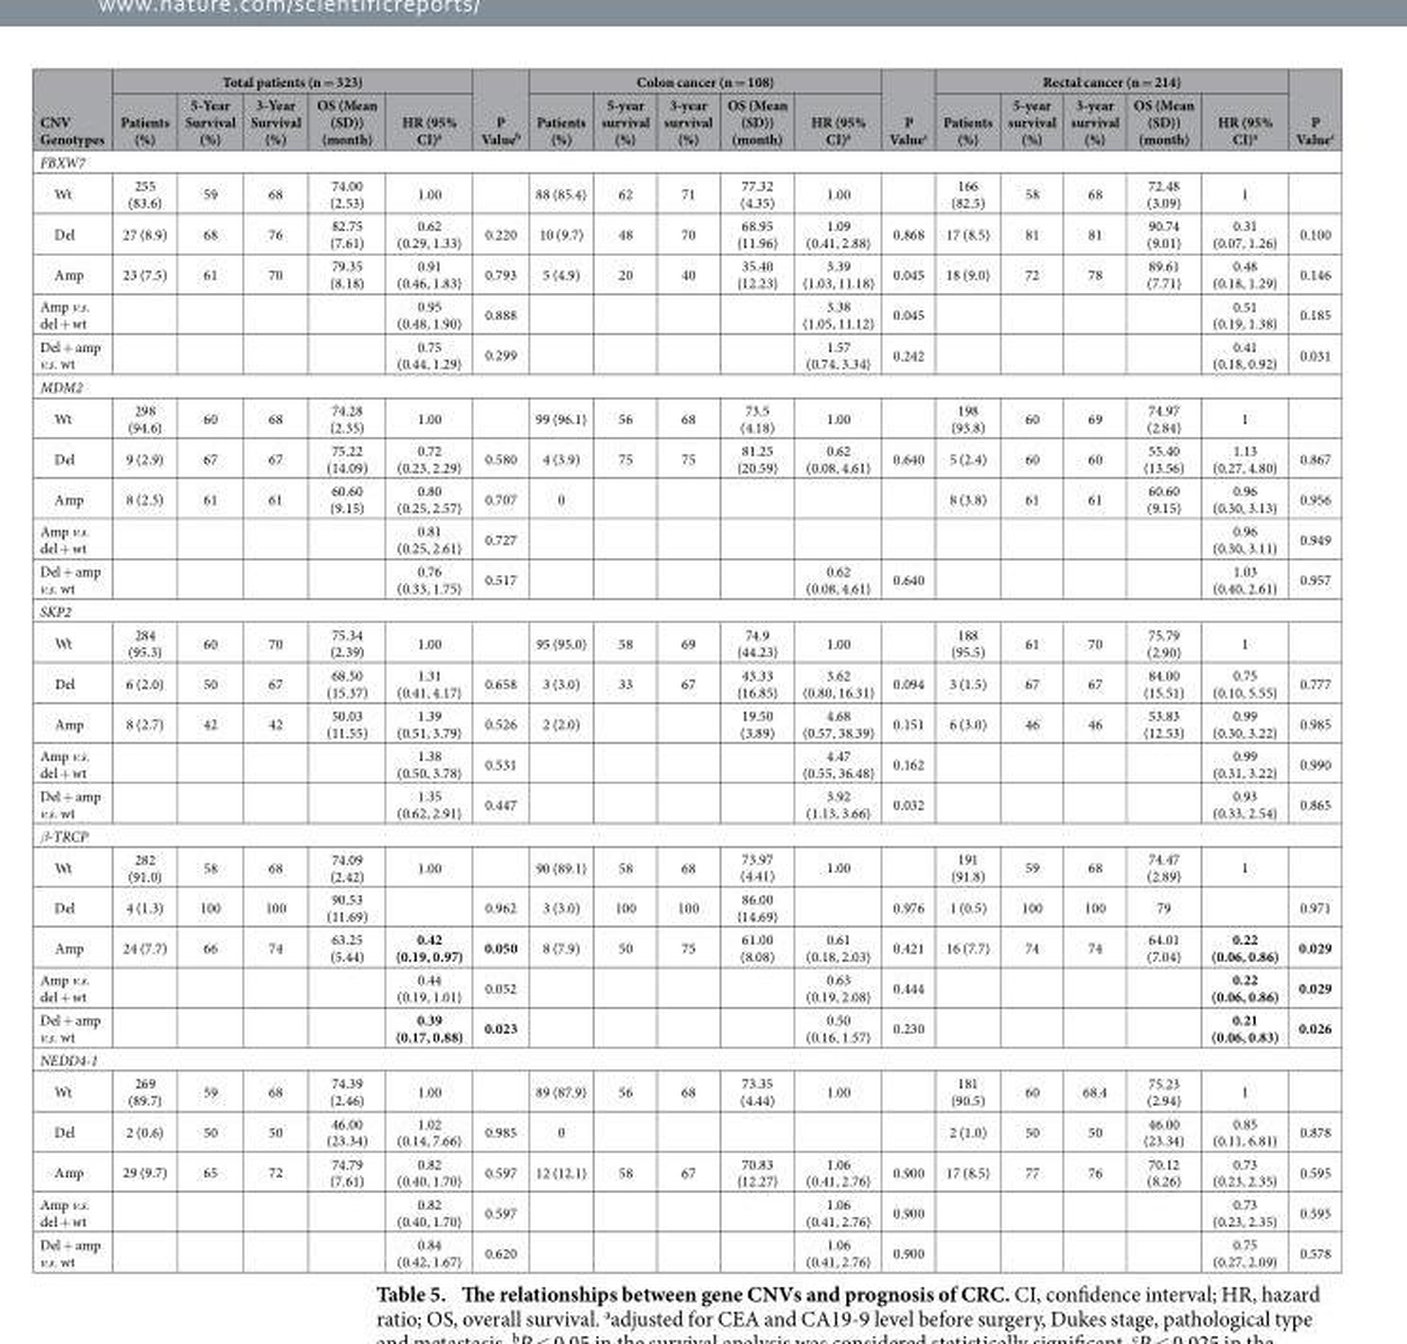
<table><thead><tr><td rowspan="2">CNV Genotypes</td><td colspan="5">Total patients (n = 323)</td><td rowspan="2">P Value<sup>b</sup></td><td colspan="5">Colon cancer (n = 108)</td><td rowspan="2">P Value<sup>c</sup></td><td colspan="5">Rectal cancer (n = 214)</td><td rowspan="2">P Value<sup>c</sup></td></tr><tr><td>Patients (%)</td><td>5-Year Survival (%)</td><td>3-Year Survival (%)</td><td>OS (Mean (SD)) (month)</td><td>HR (95% CI)<sup>a</sup></td><td>Patients (%)</td><td>5-year survival (%)</td><td>3-year survival (%)</td><td>OS (Mean (SD)) (month)</td><td>HR (95% CI)<sup>a</sup></td><td>Patients (%)</td><td>5-year survival (%)</td><td>3-year survival (%)</td><td>OS (Mean (SD)) (month)</td><td>HR (95% CI)<sup>a</sup></td></tr></thead><tbody><tr><td colspan="19">FBXW7</td></tr><tr><td>Wt</td><td>255 (83.6)</td><td>59</td><td>68</td><td>74.00 (2.53)</td><td>1.00</td><td></td><td>88 (85.4)</td><td>62</td><td>71</td><td>77.32 (4.35)</td><td>1.00</td><td></td><td>166 (82.5)</td><td>58</td><td>68</td><td>72.48 (3.09)</td><td>1</td><td></td></tr><tr><td>Del</td><td>27 (8.9)</td><td>68</td><td>76</td><td>82.75 (7.61)</td><td>0.62 (0.29, 1.33)</td><td>0.220</td><td>10 (9.7)</td><td>48</td><td>70</td><td>68.95 (11.96)</td><td>1.09 (0.41, 2.88)</td><td>0.868</td><td>17 (8.5)</td><td>81</td><td>81</td><td>90.74 (9.01)</td><td>0.31 (0.07, 1.26)</td><td>0.100</td></tr><tr><td>Amp</td><td>23 (7.5)</td><td>61</td><td>70</td><td>79.35 (8.18)</td><td>0.91 (0.46, 1.83)</td><td>0.793</td><td>5 (4.9)</td><td>20</td><td>40</td><td>35.40 (12.23)</td><td>3.39 (1.03, 11.18)</td><td>0.045</td><td>18 (9.0)</td><td>72</td><td>78</td><td>89.61 (7.71)</td><td>0.48 (0.18, 1.29)</td><td>0.146</td></tr><tr><td>Amp v.s. del + wt</td><td></td><td></td><td></td><td></td><td>0.95 (0.48, 1.90)</td><td>0.888</td><td></td><td></td><td></td><td></td><td>3.38 (1.05, 11.12)</td><td>0.045</td><td></td><td></td><td></td><td></td><td>0.51 (0.19, 1.38)</td><td>0.185</td></tr><tr><td>Del + amp v.s. wt</td><td></td><td></td><td></td><td></td><td>0.75 (0.44, 1.29)</td><td>0.299</td><td></td><td></td><td></td><td></td><td>1.57 (0.74, 3.34)</td><td>0.242</td><td></td><td></td><td></td><td></td><td>0.41 (0.18, 0.92)</td><td>0.031</td></tr><tr><td colspan="19">MDM2</td></tr><tr><td>Wt</td><td>298 (94.6)</td><td>60</td><td>68</td><td>74.28 (2.35)</td><td>1.00</td><td></td><td>99 (96.1)</td><td>56</td><td>68</td><td>73.5 (4.18)</td><td>1.00</td><td></td><td>198 (93.8)</td><td>60</td><td>69</td><td>74.97 (2.84)</td><td>1</td><td></td></tr><tr><td>Del</td><td>9 (2.9)</td><td>67</td><td>67</td><td>75.22 (14.09)</td><td>0.72 (0.23, 2.29)</td><td>0.580</td><td>4 (3.9)</td><td>75</td><td>75</td><td>81.25 (20.59)</td><td>0.62 (0.08, 4.61)</td><td>0.640</td><td>5 (2.4)</td><td>60</td><td>60</td><td>55.40 (13.56)</td><td>1.13 (0.27, 4.80)</td><td>0.867</td></tr><tr><td>Amp</td><td>8 (2.5)</td><td>61</td><td>61</td><td>60.60 (9.15)</td><td>0.80 (0.25, 2.57)</td><td>0.707</td><td>0</td><td></td><td></td><td></td><td></td><td></td><td>8 (3.8)</td><td>61</td><td>61</td><td>60.60 (9.15)</td><td>0.96 (0.30, 3.13)</td><td>0.956</td></tr><tr><td>Amp v.s. del + wt</td><td></td><td></td><td></td><td></td><td>0.81 (0.25, 2.61)</td><td>0.727</td><td></td><td></td><td></td><td></td><td></td><td></td><td></td><td></td><td></td><td></td><td>0.96 (0.30, 3.11)</td><td>0.949</td></tr><tr><td>Del + amp v.s. wt</td><td></td><td></td><td></td><td></td><td>0.76 (0.33, 1.75)</td><td>0.517</td><td></td><td></td><td></td><td></td><td>0.62 (0.08, 4.61)</td><td>0.640</td><td></td><td></td><td></td><td></td><td>1.03 (0.40, 2.61)</td><td>0.957</td></tr><tr><td colspan="19">SKP2</td></tr><tr><td>Wt</td><td>284 (95.3)</td><td>60</td><td>70</td><td>75.34 (2.39)</td><td>1.00</td><td></td><td>95 (95.0)</td><td>58</td><td>69</td><td>74.9 (44.23)</td><td>1.00</td><td></td><td>188 (95.5)</td><td>61</td><td>70</td><td>75.79 (2.90)</td><td>1</td><td></td></tr><tr><td>Del</td><td>6 (2.0)</td><td>50</td><td>67</td><td>68.50 (15.37)</td><td>1.31 (0.41, 4.17)</td><td>0.658</td><td>3 (3.0)</td><td>33</td><td>67</td><td>43.33 (16.85)</td><td>3.62 (0.80, 16.31)</td><td>0.094</td><td>3 (1.5)</td><td>67</td><td>67</td><td>84.00 (15.51)</td><td>0.75 (0.10, 5.55)</td><td>0.777</td></tr><tr><td>Amp</td><td>8 (2.7)</td><td>42</td><td>42</td><td>50.03 (11.55)</td><td>1.39 (0.51, 3.79)</td><td>0.526</td><td>2 (2.0)</td><td></td><td></td><td>19.50 (3.89)</td><td>4.68 (0.57, 38.39)</td><td>0.151</td><td>6 (3.0)</td><td>46</td><td>46</td><td>53.83 (12.53)</td><td>0.99 (0.30, 3.22)</td><td>0.985</td></tr><tr><td>Amp v.s. del + wt</td><td></td><td></td><td></td><td></td><td>1.38 (0.50, 3.78)</td><td>0.531</td><td></td><td></td><td></td><td></td><td>4.47 (0.55, 36.48)</td><td>0.162</td><td></td><td></td><td></td><td></td><td>0.99 (0.31, 3.22)</td><td>0.990</td></tr><tr><td>Del + amp v.s. wt</td><td></td><td></td><td></td><td></td><td>1.35 (0.62, 2.91)</td><td>0.447</td><td></td><td></td><td></td><td></td><td>3.92 (1.13, 3.66)</td><td>0.032</td><td></td><td></td><td></td><td></td><td>0.93 (0.33, 2.54)</td><td>0.865</td></tr><tr><td colspan="19">β-TRCP</td></tr><tr><td>Wt</td><td>282 (91.0)</td><td>58</td><td>68</td><td>74.09 (2.42)</td><td>1.00</td><td></td><td>90 (89.1)</td><td>58</td><td>68</td><td>73.97 (4.41)</td><td>1.00</td><td></td><td>191 (91.8)</td><td>59</td><td>68</td><td>74.47 (2.89)</td><td>1</td><td></td></tr><tr><td>Del</td><td>4 (1.3)</td><td>100</td><td>100</td><td>90.53 (11.69)</td><td></td><td>0.962</td><td>3 (3.0)</td><td>100</td><td>100</td><td>86.00 (14.69)</td><td></td><td>0.976</td><td>1 (0.5)</td><td>100</td><td>100</td><td>79</td><td></td><td>0.971</td></tr><tr><td>Amp</td><td>24 (7.7)</td><td>66</td><td>74</td><td>63.25 (5.44)</td><td>0.42 (0.19, 0.97)</td><td>0.050</td><td>8 (7.9)</td><td>50</td><td>75</td><td>61.00 (8.08)</td><td>0.61 (0.18, 2.03)</td><td>0.421</td><td>16 (7.7)</td><td>74</td><td>74</td><td>64.01 (7.04)</td><td>0.22 (0.06, 0.86)</td><td>0.029</td></tr><tr><td>Amp v.s. del + wt</td><td></td><td></td><td></td><td></td><td>0.44 (0.19, 1.01)</td><td>0.052</td><td></td><td></td><td></td><td></td><td>0.63 (0.19, 2.08)</td><td>0.444</td><td></td><td></td><td></td><td></td><td>0.22 (0.06, 0.86)</td><td>0.029</td></tr><tr><td>Del + amp v.s. wt</td><td></td><td></td><td></td><td></td><td>0.39 (0.17, 0.88)</td><td>0.023</td><td></td><td></td><td></td><td></td><td>0.50 (0.16, 1.57)</td><td>0.230</td><td></td><td></td><td></td><td></td><td>0.21 (0.06, 0.83)</td><td>0.026</td></tr><tr><td colspan="19">NEDD4-1</td></tr><tr><td>Wt</td><td>269 (89.7)</td><td>59</td><td>68</td><td>74.39 (2.46)</td><td>1.00</td><td></td><td>89 (87.9)</td><td>56</td><td>68</td><td>73.35 (4.44)</td><td>1.00</td><td></td><td>181 (90.5)</td><td>60</td><td>68.4</td><td>75.23 (2.94)</td><td>1</td><td></td></tr><tr><td>Del</td><td>2 (0.6)</td><td>50</td><td>50</td><td>46.00 (23.34)</td><td>1.02 (0.14, 7.66)</td><td>0.985</td><td>0</td><td></td><td></td><td></td><td></td><td></td><td>2 (1.0)</td><td>50</td><td>50</td><td>46.00 (23.34)</td><td>0.85 (0.11, 6.81)</td><td>0.878</td></tr><tr><td>Amp</td><td>29 (9.7)</td><td>65</td><td>72</td><td>74.79 (7.61)</td><td>0.82 (0.40, 1.70)</td><td>0.597</td><td>12 (12.1)</td><td>58</td><td>67</td><td>70.83 (12.27)</td><td>1.06 (0.41, 2.76)</td><td>0.900</td><td>17 (8.5)</td><td>77</td><td>76</td><td>70.12 (8.26)</td><td>0.73 (0.23, 2.35)</td><td>0.595</td></tr><tr><td>Amp v.s. del + wt</td><td></td><td></td><td></td><td></td><td>0.82 (0.40, 1.70)</td><td>0.597</td><td></td><td></td><td></td><td></td><td>1.06 (0.41, 2.76)</td><td>0.900</td><td></td><td></td><td></td><td></td><td>0.73 (0.23, 2.35)</td><td>0.595</td></tr><tr><td>Del + amp v.s. wt</td><td></td><td></td><td></td><td></td><td>0.84 (0.42, 1.67)</td><td>0.620</td><td></td><td></td><td></td><td></td><td>1.06 (0.41, 2.76)</td><td>0.900</td><td></td><td></td><td></td><td></td><td>0.75 (0.27, 2.09)</td><td>0.578</td></tr></tbody></table>